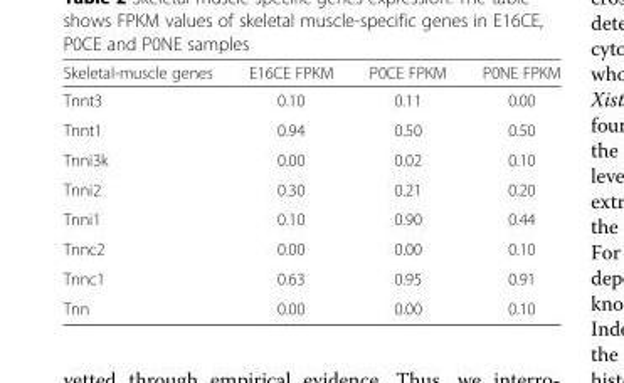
<table><thead><tr><td>Skeletal-muscle genes</td><td>E16CE FPKM</td><td>P0CE FPKM</td><td>P0NE FPKM</td></tr></thead><tbody><tr><td>Tnnt3</td><td>0.10</td><td>0.11</td><td>0.00</td></tr><tr><td>Tnnt1</td><td>0.94</td><td>0.50</td><td>0.50</td></tr><tr><td>Tnni3k</td><td>0.00</td><td>0.02</td><td>0.10</td></tr><tr><td>Tnni2</td><td>0.30</td><td>0.21</td><td>0.20</td></tr><tr><td>Tnni1</td><td>0.10</td><td>0.90</td><td>0.44</td></tr><tr><td>Tnnc2</td><td>0.00</td><td>0.00</td><td>0.10</td></tr><tr><td>Tnnc1</td><td>0.63</td><td>0.95</td><td>0.91</td></tr><tr><td>Tnn</td><td>0.00</td><td>0.00</td><td>0.10</td></tr></tbody></table>